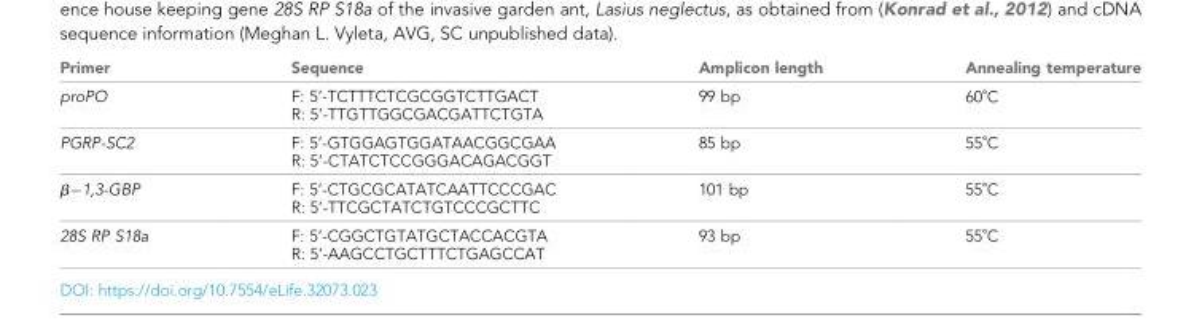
<table><thead><tr><td>Primer</td><td>Sequence</td><td>Amplicon length</td><td>Annealing temperature</td></tr></thead><tbody><tr><td>proPO</td><td>F: 5’-TCTTTCTCGCGGTCTTGACT R: 5’-TTGTTGGCGACGATTCTGTA</td><td>99 bp</td><td>60˚C</td></tr><tr><td>PGRP-SC2</td><td>F: 5’-GTGGAGTGGATAACGGCGAA R: 5’-CTATCTCCGGGACAGACGGT</td><td>85 bp</td><td>55˚C</td></tr><tr><td>β−1,3-GBP</td><td>F: 5’-CTGCGCATATCAATTCCCGAC R: 5’-TTCGCTATCTGTCCCGCTTC</td><td>101 bp</td><td>55˚C</td></tr><tr><td>28S RP S18a</td><td>F: 5’-CGGCTGTATGCTACCACGTA R: 5’-AAGCCTGCTTTCTGAGCCAT</td><td>93 bp</td><td>55˚C</td></tr></tbody></table>